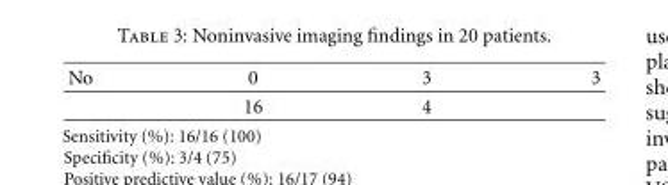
<table><thead><tr><td>No</td><td>0</td><td>3</td><td>3</td></tr></thead><tbody><tr><td></td><td>16</td><td>4</td><td></td></tr></tbody></table>